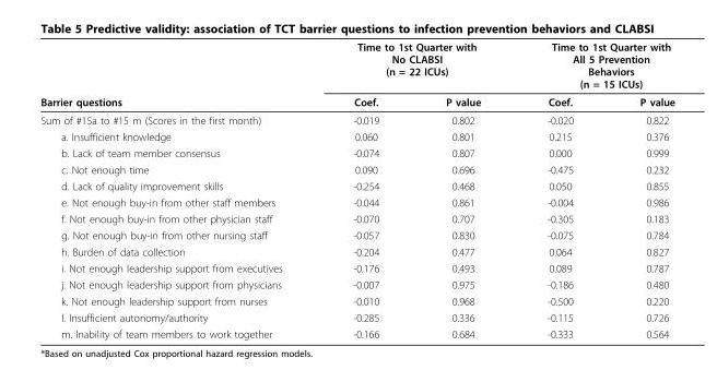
<table><thead><tr><td rowspan="2">Barrier questions</td><td colspan="2">Time to 1st Quarter with No CLABSI (n = 22 ICUs)</td><td colspan="2">Time to 1st Quarter with All 5 Prevention Behaviors (n = 15 ICUs)</td></tr><tr><td>Coef.</td><td>P value</td><td>Coef.</td><td>P value</td></tr></thead><tbody><tr><td>Sum of #15a to #15 m (Scores in the first month)</td><td>-0.019</td><td>0.802</td><td>-0.020</td><td>0.822</td></tr><tr><td>a. Insufficient knowledge</td><td>0.060</td><td>0.801</td><td>0.215</td><td>0.376</td></tr><tr><td>b. Lack of team member consensus</td><td>-0.074</td><td>0.807</td><td>0.000</td><td>0.999</td></tr><tr><td>c. Not enough time</td><td>0.090</td><td>0.696</td><td>-0.475</td><td>0.232</td></tr><tr><td>d. Lack of quality improvement skills</td><td>-0.254</td><td>0.468</td><td>0.050</td><td>0.855</td></tr><tr><td>e. Not enough buy-in from other staff members</td><td>-0.044</td><td>0.861</td><td>-0.004</td><td>0.986</td></tr><tr><td>f. Not enough buy-in from other physician staff</td><td>-0.070</td><td>0.707</td><td>-0.305</td><td>0.183</td></tr><tr><td>g. Not enough buy-in from other nursing staff</td><td>-0.057</td><td>0.830</td><td>-0.075</td><td>0.784</td></tr><tr><td>h. Burden of data collection</td><td>-0.204</td><td>0.477</td><td>0.064</td><td>0.827</td></tr><tr><td>i. Not enough leadership support from executives</td><td>-0.176</td><td>0.493</td><td>0.089</td><td>0.787</td></tr><tr><td>j. Not enough leadership support from physicians</td><td>-0.007</td><td>0.975</td><td>-0.186</td><td>0.480</td></tr><tr><td>k. Not enough leadership support from nurses</td><td>-0.010</td><td>0.968</td><td>-0.500</td><td>0.220</td></tr><tr><td>l. Insufficient autonomy/authority</td><td>-0.285</td><td>0.336</td><td>-0.115</td><td>0.726</td></tr><tr><td>m. Inability of team members to work together</td><td>-0.166</td><td>0.684</td><td>-0.333</td><td>0.564</td></tr></tbody></table>